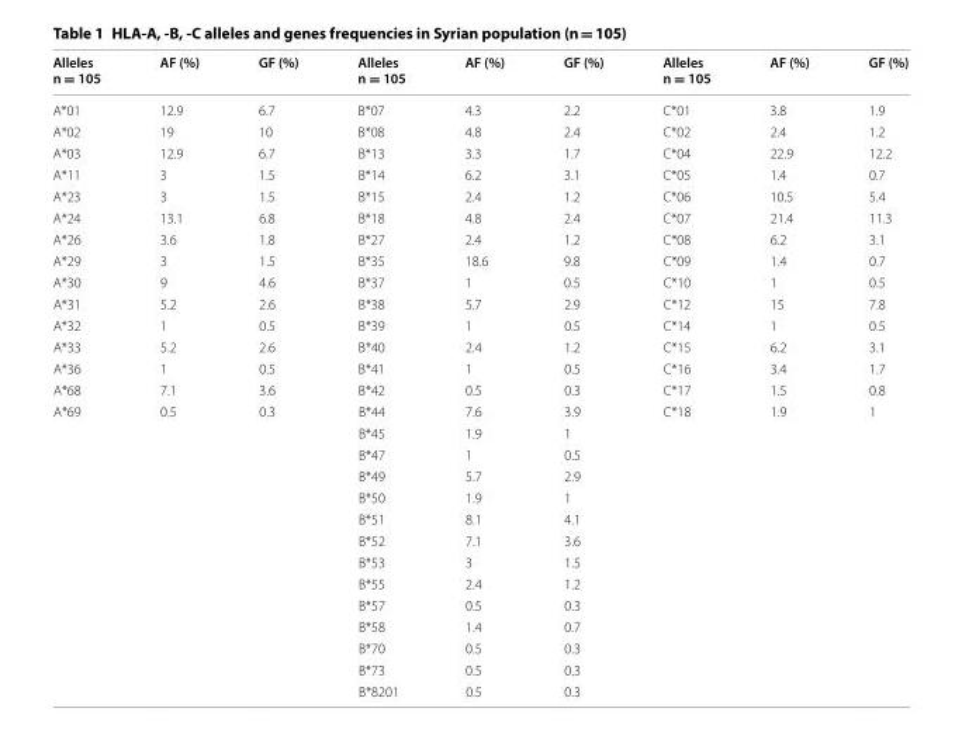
<table><thead><tr><td>Alleles n = 105</td><td>AF (%)</td><td>GF (%)</td><td>Alleles n = 105</td><td>AF (%)</td><td>GF (%)</td><td>Alleles n = 105</td><td>AF (%)</td><td>GF (%)</td></tr></thead><tbody><tr><td>A*01</td><td>12.9</td><td>6.7</td><td>B*07</td><td>4.3</td><td>2.2</td><td>C*01</td><td>3.8</td><td>1.9</td></tr><tr><td>A*02</td><td>19</td><td>10</td><td>B*08</td><td>4.8</td><td>2.4</td><td>C*02</td><td>2.4</td><td>1.2</td></tr><tr><td>A*03</td><td>12.9</td><td>6.7</td><td>B*13</td><td>3.3</td><td>1.7</td><td>C*04</td><td>22.9</td><td>12.2</td></tr><tr><td>A*11</td><td>3</td><td>1.5</td><td>B*14</td><td>6.2</td><td>3.1</td><td>C*05</td><td>1.4</td><td>0.7</td></tr><tr><td>A*23</td><td>3</td><td>1.5</td><td>B*15</td><td>2.4</td><td>1.2</td><td>C*06</td><td>10.5</td><td>5.4</td></tr><tr><td>A*24</td><td>13.1</td><td>6.8</td><td>B*18</td><td>4.8</td><td>2.4</td><td>C*07</td><td>21.4</td><td>11.3</td></tr><tr><td>A*26</td><td>3.6</td><td>1.8</td><td>B*27</td><td>2.4</td><td>1.2</td><td>C*08</td><td>6.2</td><td>3.1</td></tr><tr><td>A*29</td><td>3</td><td>1.5</td><td>B*35</td><td>18.6</td><td>9.8</td><td>C*09</td><td>1.4</td><td>0.7</td></tr><tr><td>A*30</td><td>9</td><td>4.6</td><td>B*37</td><td>1</td><td>0.5</td><td>C*10</td><td>1</td><td>0.5</td></tr><tr><td>A*31</td><td>5.2</td><td>2.6</td><td>B*38</td><td>5.7</td><td>2.9</td><td>C*12</td><td>15</td><td>7.8</td></tr><tr><td>A*32</td><td>1</td><td>0.5</td><td>B*39</td><td>1</td><td>0.5</td><td>C*14</td><td>1</td><td>0.5</td></tr><tr><td>A*33</td><td>5.2</td><td>2.6</td><td>B*40</td><td>2.4</td><td>1.2</td><td>C*15</td><td>6.2</td><td>3.1</td></tr><tr><td>A*36</td><td>1</td><td>0.5</td><td>B*41</td><td>1</td><td>0.5</td><td>C*16</td><td>3.4</td><td>1.7</td></tr><tr><td>A*68</td><td>7.1</td><td>3.6</td><td>B*42</td><td>0.5</td><td>0.3</td><td>C*17</td><td>1.5</td><td>0.8</td></tr><tr><td rowspan="14">A*69</td><td>0.5</td><td>0.3</td><td>B*44</td><td>7.6</td><td>3.9</td><td>C*18</td><td>1.9</td><td>1</td></tr><tr><td></td><td></td><td>B*45</td><td>1.9</td><td>1</td><td></td><td></td><td></td></tr><tr><td></td><td></td><td>B*47</td><td>1</td><td>0.5</td><td></td><td></td><td></td></tr><tr><td></td><td></td><td>B*49</td><td>5.7</td><td>2.9</td><td></td><td></td><td></td></tr><tr><td></td><td></td><td>B*50</td><td>1.9</td><td>1</td><td></td><td></td><td></td></tr><tr><td></td><td></td><td>B*51</td><td>8.1</td><td>4.1</td><td></td><td></td><td></td></tr><tr><td></td><td></td><td>B*52</td><td>7.1</td><td>3.6</td><td></td><td></td><td></td></tr><tr><td></td><td></td><td>B*53</td><td>3</td><td>1.5</td><td></td><td></td><td></td></tr><tr><td></td><td></td><td>B*55</td><td>2.4</td><td>1.2</td><td></td><td></td><td></td></tr><tr><td></td><td></td><td>B*57</td><td>0.5</td><td>0.3</td><td></td><td></td><td></td></tr><tr><td></td><td></td><td>B*58</td><td>1.4</td><td>0.7</td><td></td><td></td><td></td></tr><tr><td></td><td></td><td>B*70</td><td>0.5</td><td>0.3</td><td></td><td></td><td></td></tr><tr><td></td><td></td><td>B*73</td><td>0.5</td><td>0.3</td><td></td><td></td><td></td></tr><tr><td></td><td></td><td>B*8201</td><td>0.5</td><td>0.3</td><td></td><td></td><td></td></tr></tbody></table>